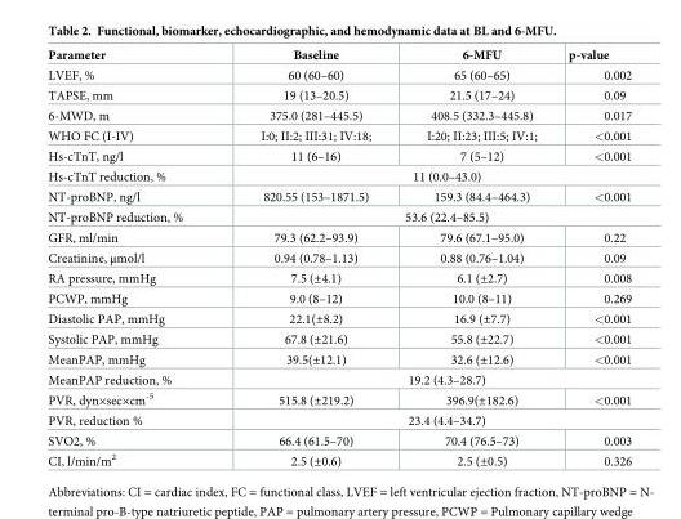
<table><thead><tr><td>Parameter</td><td>Baseline</td><td>6-MFU</td><td>p-value</td></tr></thead><tbody><tr><td>LVEF, %</td><td>60 (60–60)</td><td>65 (60–65)</td><td>0.002</td></tr><tr><td>TAPSE, mm</td><td>19 (13–20.5)</td><td>21.5 (17–24)</td><td>0.09</td></tr><tr><td>6-MWD, m</td><td>375.0 (281–445.5)</td><td>408.5 (332.3–445.8)</td><td>0.017</td></tr><tr><td>WHO FC (I-IV)</td><td>I:0; II:2; III:31; IV:18;</td><td>I:20; II:23; III:5; IV:1;</td><td>&lt;0.001</td></tr><tr><td>Hs-cTnT, ng/l</td><td>11 (6–16)</td><td>7 (5–12)</td><td>&lt;0.001</td></tr><tr><td>Hs-cTnT reduction, %</td><td colspan="3">11 (0.0–43.0)</td></tr><tr><td>NT-proBNP, ng/l</td><td>820.55 (153–1871.5)</td><td>159.3 (84.4–464.3)</td><td>&lt;0.001</td></tr><tr><td>NT-proBNP reduction, %</td><td colspan="3">53.6 (22.4–85.5)</td></tr><tr><td>GFR, ml/min</td><td>79.3 (62.2–93.9)</td><td>79.6 (67.1–95.0)</td><td>0.22</td></tr><tr><td>Creatinine, μmol/l</td><td>0.94 (0.78–1.13)</td><td>0.88 (0.76–1.04)</td><td>0.09</td></tr><tr><td>RA pressure, mmHg</td><td>7.5 (±4.1)</td><td>6.1 (±2.7)</td><td>0.008</td></tr><tr><td>PCWP, mmHg</td><td>9.0 (8–12)</td><td>10.0 (8–11)</td><td>0.269</td></tr><tr><td>Diastolic PAP, mmHg</td><td>22.1(±8.2)</td><td>16.9 (±7.7)</td><td>&lt;0.001</td></tr><tr><td>Systolic PAP, mmHg</td><td>67.8 (±21.6)</td><td>55.8 (±22.7)</td><td>&lt;0.001</td></tr><tr><td>MeanPAP, mmHg</td><td>39.5(±12.1)</td><td>32.6 (±12.6)</td><td>&lt;0.001</td></tr><tr><td>MeanPAP reduction, %</td><td colspan="3">19.2 (4.3–28.7)</td></tr><tr><td>PVR, dyn×sec×cm<sup>-5</sup></td><td>515.8 (±219.2)</td><td>396.9(±182.6)</td><td>&lt;0.001</td></tr><tr><td>PVR, reduction %</td><td colspan="3">23.4 (4.4–34.7)</td></tr><tr><td>SVO2, %</td><td>66.4 (61.5–70)</td><td>70.4 (76.5–73)</td><td>0.003</td></tr><tr><td>CI, l/min/m<sup>2</sup></td><td>2.5 (±0.6)</td><td>2.5 (±0.5)</td><td>0.326</td></tr></tbody></table>